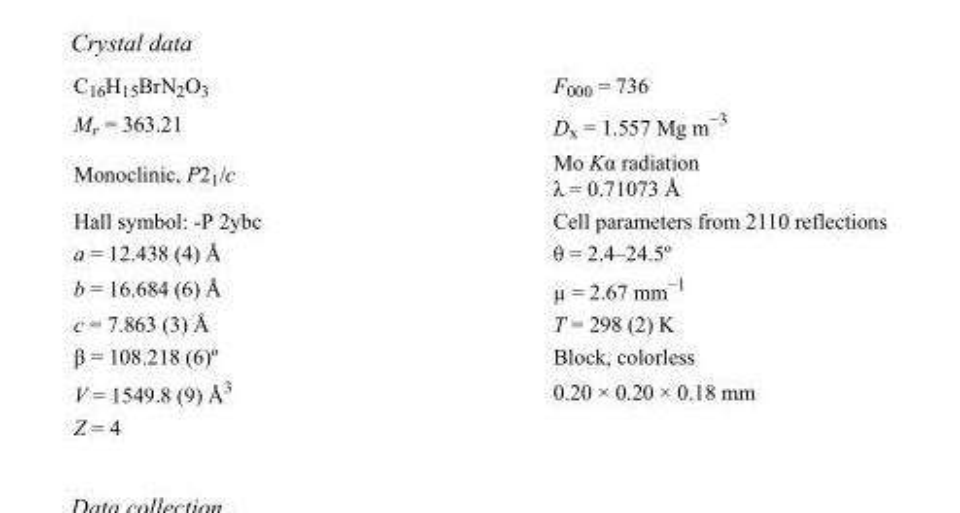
<table><tbody><tr><td>C<sub>16</sub>H<sub>15</sub>BrN<sub>2</sub>O<sub>3</sub></td><td>F<sub>000</sub> = 736</td></tr><tr><td>M<sub>r</sub> = 363.21</td><td>D<sub>x</sub> = 1.557 Mg m<sup>−3</sup></td></tr><tr><td>Monoclinic, P2<sub>1</sub>/c</td><td>Mo Kα radiation λ = 0.71073 Å</td></tr><tr><td>Hall symbol: -P 2ybc</td><td>Cell parameters from 2110 reflections</td></tr><tr><td>a = 12.438 (4) Å</td><td>θ = 2.4–24.5º</td></tr><tr><td>b = 16.684 (6) Å</td><td>µ = 2.67 mm<sup>−1</sup></td></tr><tr><td>c = 7.863 (3) Å</td><td>T = 298 (2) K</td></tr><tr><td>β = 108.218 (6)º</td><td>Block, colorless</td></tr><tr><td>V = 1549.8 (9) Å<sup>3</sup></td><td>0.20 × 0.20 × 0.18 mm</td></tr><tr><td>Z = 4</td><td></td></tr></tbody></table>